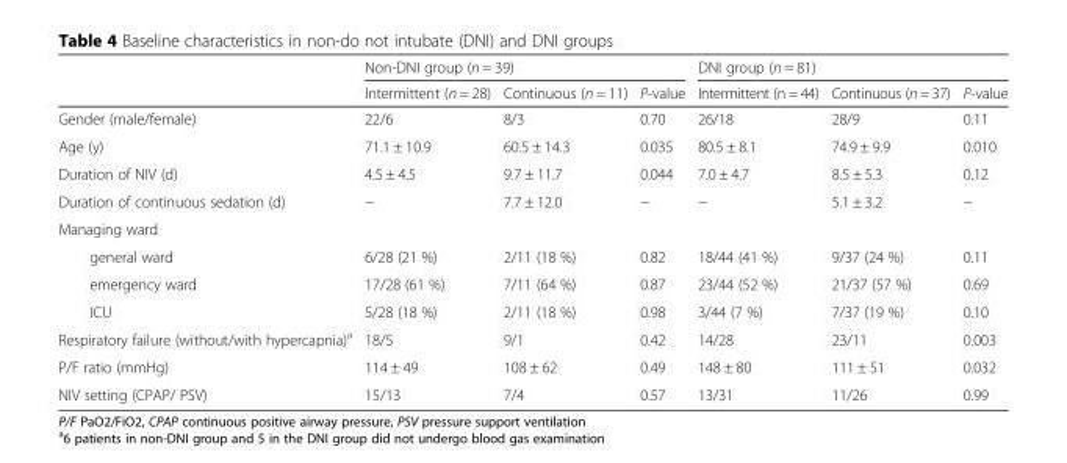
<table><thead><tr><td rowspan="2"></td><td colspan="3">Non-DNI group (n = 39)</td><td colspan="3">DNI group (n = 81)</td></tr><tr><td>Intermittent (n = 28)</td><td>Continuous (n = 11)</td><td>P-value</td><td>Intermittent (n = 44)</td><td>Continuous (n = 37)</td><td>P-value</td></tr></thead><tbody><tr><td>Gender (male/female)</td><td>22/6</td><td>8/3</td><td>0.70</td><td>26/18</td><td>28/9</td><td>0.11</td></tr><tr><td>Age (y)</td><td>71.1 ± 10.9</td><td>60.5 ± 14.3</td><td>0.035</td><td>80.5 ± 8.1</td><td>74.9 ± 9.9</td><td>0.010</td></tr><tr><td>Duration of NIV (d)</td><td>4.5 ± 4.5</td><td>9.7 ± 11.7</td><td>0.044</td><td>7.0 ± 4.7</td><td>8.5 ± 5.3</td><td>0.12</td></tr><tr><td>Duration of continuous sedation (d)</td><td>−</td><td>7.7 ± 12.0</td><td>−</td><td>−</td><td>5.1 ± 3.2</td><td>−</td></tr><tr><td colspan="7">Managing ward</td></tr><tr><td>general ward</td><td>6/28 (21 %)</td><td>2/11 (18 %)</td><td>0.82</td><td>18/44 (41 %)</td><td>9/37 (24 %)</td><td>0.11</td></tr><tr><td>emergency ward</td><td>17/28 (61 %)</td><td>7/11 (64 %)</td><td>0.87</td><td>23/44 (52 %)</td><td>21/37 (57 %)</td><td>0.69</td></tr><tr><td>ICU</td><td>5/28 (18 %)</td><td>2/11 (18 %)</td><td>0.98</td><td>3/44 (7 %)</td><td>7/37 (19 %)</td><td>0.10</td></tr><tr><td>Respiratory failure (without/with hypercapnia)<sup>a</sup></td><td>18/5</td><td>9/1</td><td>0.42</td><td>14/28</td><td>23/11</td><td>0.003</td></tr><tr><td>P/F ratio (mmHg)</td><td>114 ± 49</td><td>108 ± 62</td><td>0.49</td><td>148 ± 80</td><td>111 ± 51</td><td>0.032</td></tr><tr><td>NIV setting (CPAP/ PSV)</td><td>15/13</td><td>7/4</td><td>0.57</td><td>13/31</td><td>11/26</td><td>0.99</td></tr></tbody></table>